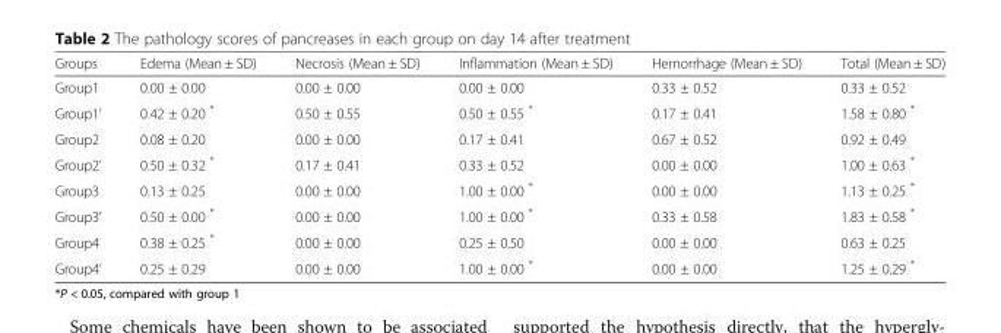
<table><thead><tr><td>Groups</td><td>Edema (Mean ± SD)</td><td>Necrosis (Mean ± SD)</td><td>Inflammation (Mean ± SD)</td><td>Hemorrhage (Mean ± SD)</td><td>Total (Mean ± SD)</td></tr></thead><tbody><tr><td>Group1</td><td>0.00 ± 0.00</td><td>0.00 ± 0.00</td><td>0.00 ± 0.00</td><td>0.33 ± 0.52</td><td>0.33 ± 0.52</td></tr><tr><td>Group1’</td><td>0.42 ± 0.20 *</td><td>0.50 ± 0.55</td><td>0.50 ± 0.55 *</td><td>0.17 ± 0.41</td><td>1.58 ± 0.80 *</td></tr><tr><td>Group2</td><td>0.08 ± 0.20</td><td>0.00 ± 0.00</td><td>0.17 ± 0.41</td><td>0.67 ± 0.52</td><td>0.92 ± 0.49</td></tr><tr><td>Group2’</td><td>0.50 ± 0.32 *</td><td>0.17 ± 0.41</td><td>0.33 ± 0.52</td><td>0.00 ± 0.00</td><td>1.00 ± 0.63 *</td></tr><tr><td>Group3</td><td>0.13 ± 0.25</td><td>0.00 ± 0.00</td><td>1.00 ± 0.00 *</td><td>0.00 ± 0.00</td><td>1.13 ± 0.25 *</td></tr><tr><td>Group3’</td><td>0.50 ± 0.00 *</td><td>0.00 ± 0.00</td><td>1.00 ± 0.00 *</td><td>0.33 ± 0.58</td><td>1.83 ± 0.58 *</td></tr><tr><td>Group4</td><td>0.38 ± 0.25 *</td><td>0.00 ± 0.00</td><td>0.25 ± 0.50</td><td>0.00 ± 0.00</td><td>0.63 ± 0.25</td></tr><tr><td>Group4’</td><td>0.25 ± 0.29</td><td>0.00 ± 0.00</td><td>1.00 ± 0.00 *</td><td>0.00 ± 0.00</td><td>1.25 ± 0.29 *</td></tr></tbody></table>